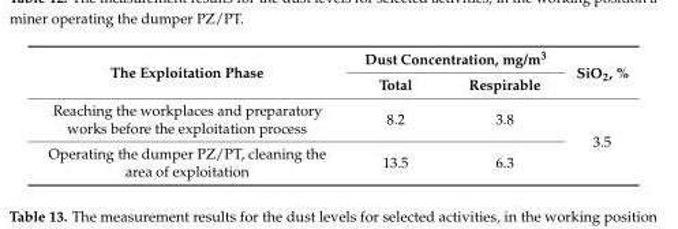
<table><thead><tr><td rowspan="2">The Exploitation Phase</td><td colspan="2">Dust Concentration, mg/m<sup>3</sup></td><td rowspan="2">SiO<sub>2</sub>, %</td></tr><tr><td>Total</td><td>Respirable</td></tr></thead><tbody><tr><td>Reaching the workplaces and preparatory works before the exploitation process</td><td>8.2</td><td>3.8</td><td rowspan="2">3.5</td></tr><tr><td>Operating the dumper PZ/PT, cleaning the area of exploitation</td><td>13.5</td><td>6.3</td></tr></tbody></table>